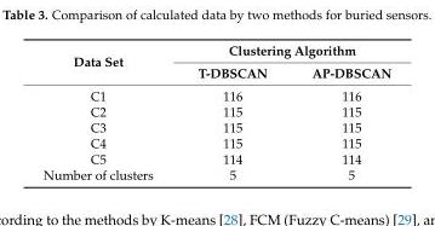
<table><thead><tr><td rowspan="2">Data Set</td><td colspan="2">Clustering Algorithm</td></tr><tr><td>T-DBSCAN</td><td>AP-DBSCAN</td></tr></thead><tbody><tr><td>C1</td><td>116</td><td>116</td></tr><tr><td>C2</td><td>115</td><td>115</td></tr><tr><td>C3</td><td>115</td><td>115</td></tr><tr><td>C4</td><td>115</td><td>115</td></tr><tr><td>C5</td><td>114</td><td>114</td></tr><tr><td>Number of clusters</td><td>5</td><td>5</td></tr></tbody></table>